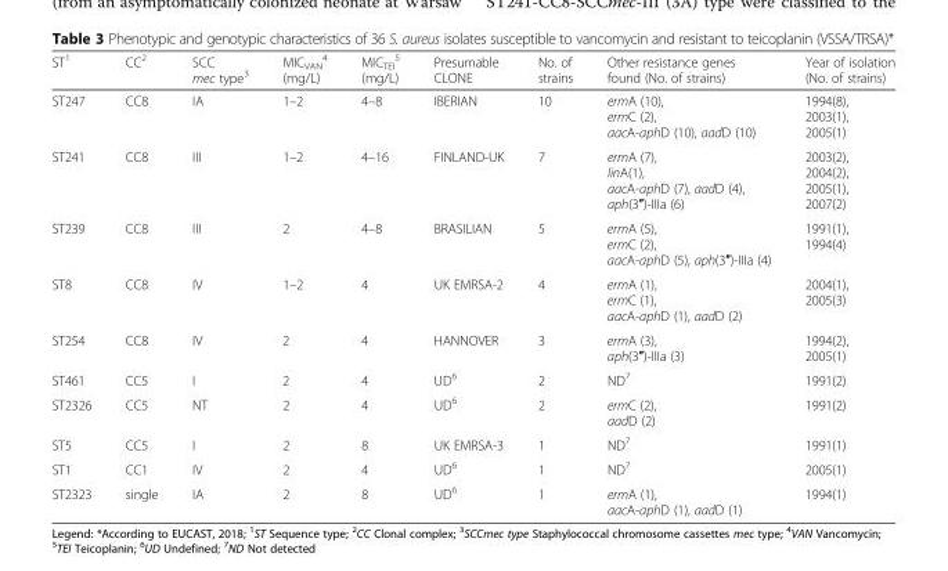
<table><thead><tr><td>ST<sup>1</sup></td><td>CC<sup>2</sup></td><td>SCC mec type<sup>3</sup></td><td>MIC<sub>VAN</sub> <sup>4</sup> (mg/L)</td><td>MIC<sub>TEI</sub> <sup>5</sup> (mg/L)</td><td>Presumable CLONE</td><td>No. of strains</td><td>Other resistance genes found (No. of strains)</td><td>Year of isolation (No. of strains)</td></tr></thead><tbody><tr><td>ST247</td><td>CC8</td><td>IA</td><td>1–2</td><td>4–8</td><td>IBERIAN</td><td>10</td><td>ermA (10), ermC (2), aacA-aphD (10), aadD (10)</td><td>1994(8), 2003(1), 2005(1)</td></tr><tr><td>ST241</td><td>CC8</td><td>III</td><td>1–2</td><td>4–16</td><td>FINLAND-UK</td><td>7</td><td>ermA (7), linA(1), aacA-aphD (7), aadD (4), aph(3″)-IIIa (6)</td><td>2003(2), 2004(2), 2005(1), 2007(2)</td></tr><tr><td>ST239</td><td>CC8</td><td>III</td><td>2</td><td>4–8</td><td>BRASILIAN</td><td>5</td><td>ermA (5), ermC (2), aacA-aphD (5), aph(3″)-IIIa (4)</td><td>1991(1), 1994(4)</td></tr><tr><td>ST8</td><td>CC8</td><td>IV</td><td>1–2</td><td>4</td><td>UK EMRSA-2</td><td>4</td><td>ermA (1), ermC (1), aacA-aphD (1), aadD (2)</td><td>2004(1), 2005(3)</td></tr><tr><td>ST254</td><td>CC8</td><td>IV</td><td>2</td><td>4</td><td>HANNOVER</td><td>3</td><td>ermA (3), aph(3″)-IIIa (3)</td><td>1994(2), 2005(1)</td></tr><tr><td>ST461</td><td>CC5</td><td>I</td><td>2</td><td>4</td><td>UD<sup>6</sup></td><td>2</td><td>ND<sup>7</sup></td><td>1991(2)</td></tr><tr><td>ST2326</td><td>CC5</td><td>NT</td><td>2</td><td>4</td><td>UD<sup>6</sup></td><td>2</td><td>ermC (2), aadD (2)</td><td>1991(2)</td></tr><tr><td>ST5</td><td>CC5</td><td>I</td><td>2</td><td>8</td><td>UK EMRSA-3</td><td>1</td><td>ND<sup>7</sup></td><td>1991(1)</td></tr><tr><td>ST1</td><td>CC1</td><td>IV</td><td>2</td><td>4</td><td>UD<sup>6</sup></td><td>1</td><td>ND<sup>7</sup></td><td>2005(1)</td></tr><tr><td>ST2323</td><td>single</td><td>IA</td><td>2</td><td>8</td><td>UD<sup>6</sup></td><td>1</td><td>ermA (1), aacA-aphD (1), aadD (1)</td><td>1994(1)</td></tr></tbody></table>